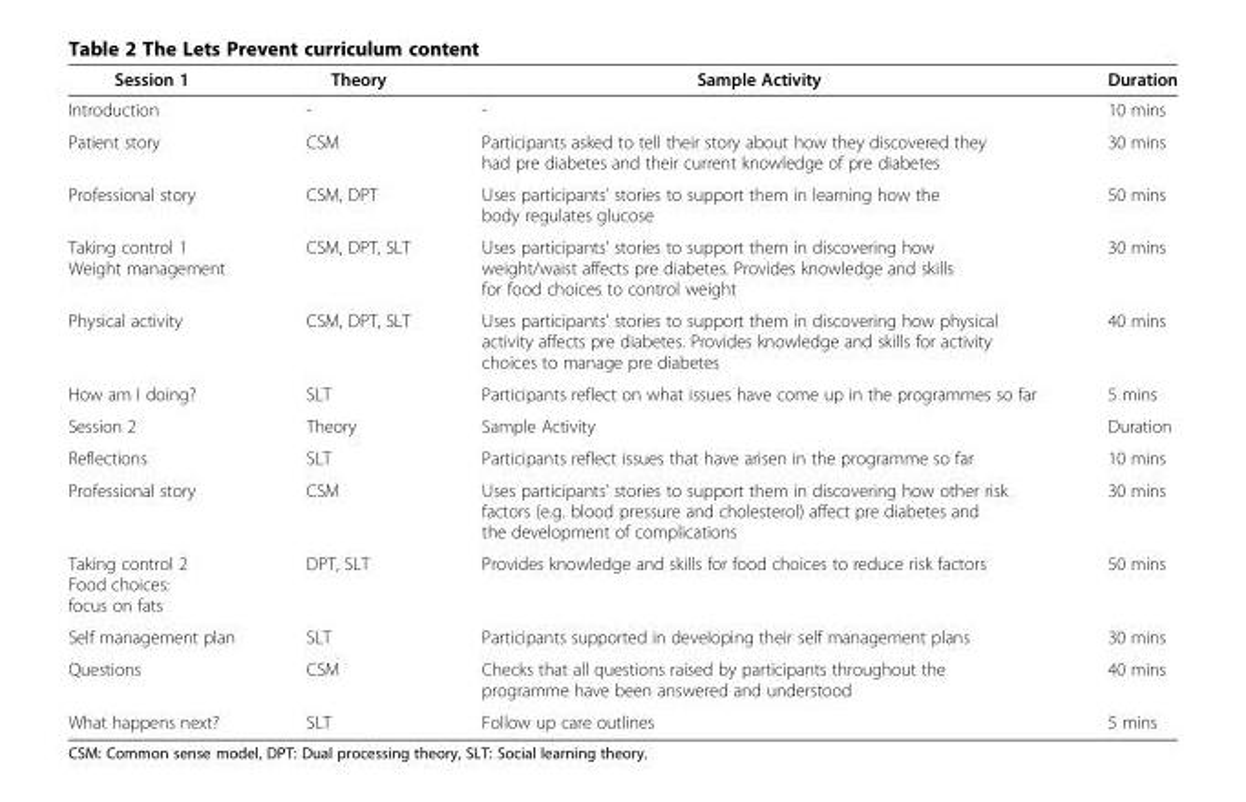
<table><thead><tr><td>Session 1</td><td>Theory</td><td>Sample Activity</td><td>Duration</td></tr></thead><tbody><tr><td>Introduction</td><td>-</td><td>-</td><td>10 mins</td></tr><tr><td>Patient story</td><td>CSM</td><td>Participants asked to tell their story about how they discovered they had pre diabetes and their current knowledge of pre diabetes</td><td>30 mins</td></tr><tr><td>Professional story</td><td>CSM, DPT</td><td>Uses participants’ stories to support them in learning how the body regulates glucose</td><td>50 mins</td></tr><tr><td>Taking control 1 Weight management</td><td>CSM, DPT, SLT</td><td>Uses participants’ stories to support them in discovering how weight/waist affects pre diabetes. Provides knowledge and skills for food choices to control weight</td><td>30 mins</td></tr><tr><td>Physical activity</td><td>CSM, DPT, SLT</td><td>Uses participants’ stories to support them in discovering how physical activity affects pre diabetes. Provides knowledge and skills for activity choices to manage pre diabetes</td><td>40 mins</td></tr><tr><td>How am I doing?</td><td>SLT</td><td>Participants reflect on what issues have come up in the programmes so far</td><td>5 mins</td></tr><tr><td>Session 2</td><td>Theory</td><td>Sample Activity</td><td>Duration</td></tr><tr><td>Reflections</td><td>SLT</td><td>Participants reflect issues that have arisen in the programme so far</td><td>10 mins</td></tr><tr><td>Professional story</td><td>CSM</td><td>Uses participants’ stories to support them in discovering how other risk factors (e.g. blood pressure and cholesterol) affect pre diabetes and the development of complications</td><td>30 mins</td></tr><tr><td>Taking control 2 Food choices: focus on fats</td><td>DPT, SLT</td><td>Provides knowledge and skills for food choices to reduce risk factors</td><td>50 mins</td></tr><tr><td>Self management plan</td><td>SLT</td><td>Participants supported in developing their self management plans</td><td>30 mins</td></tr><tr><td>Questions</td><td>CSM</td><td>Checks that all questions raised by participants throughout the programme have been answered and understood</td><td>40 mins</td></tr><tr><td>What happens next?</td><td>SLT</td><td>Follow up care outlines</td><td>5 mins</td></tr></tbody></table>